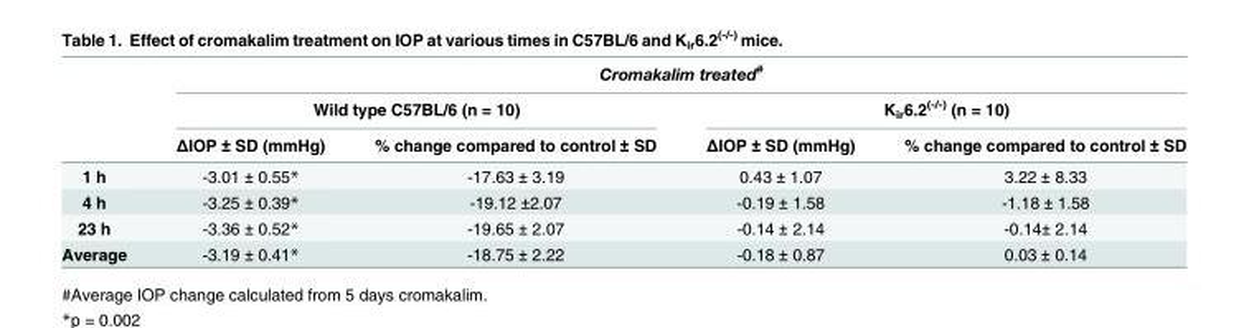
<table><thead><tr><td rowspan="3"></td><td colspan="4">Cromakalim treated<sup>#</sup></td></tr><tr><td colspan="2">Wild type C57BL/6 (n = 10)</td><td colspan="2">K<sub>ir</sub>6.2<sup>(-/-)</sup> (n = 10)</td></tr><tr><td>ΔIOP ± SD (mmHg)</td><td>% change compared to control ± SD</td><td>ΔIOP ± SD (mmHg)</td><td>% change compared to control ± SD</td></tr></thead><tbody><tr><td>1 h</td><td>-3.01 ± 0.55*</td><td>-17.63 ± 3.19</td><td>0.43 ± 1.07</td><td>3.22 ± 8.33</td></tr><tr><td>4 h</td><td>-3.25 ± 0.39*</td><td>-19.12 ±2.07</td><td>-0.19 ± 1.58</td><td>-1.18 ± 1.58</td></tr><tr><td>23 h</td><td>-3.36 ± 0.52*</td><td>-19.65 ± 2.07</td><td>-0.14 ± 2.14</td><td>-0.14± 2.14</td></tr><tr><td>Average</td><td>-3.19 ± 0.41*</td><td>-18.75 ± 2.22</td><td>-0.18 ± 0.87</td><td>0.03 ± 0.14</td></tr></tbody></table>